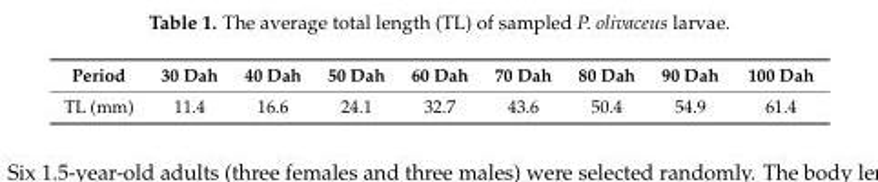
<table><thead><tr><td>Period</td><td>30 Dah</td><td>40 Dah</td><td>50 Dah</td><td>60 Dah</td><td>70 Dah</td><td>80 Dah</td><td>90 Dah</td><td>100 Dah</td></tr></thead><tbody><tr><td>TL (mm)</td><td>11.4</td><td>16.6</td><td>24.1</td><td>32.7</td><td>43.6</td><td>50.4</td><td>54.9</td><td>61.4</td></tr></tbody></table>